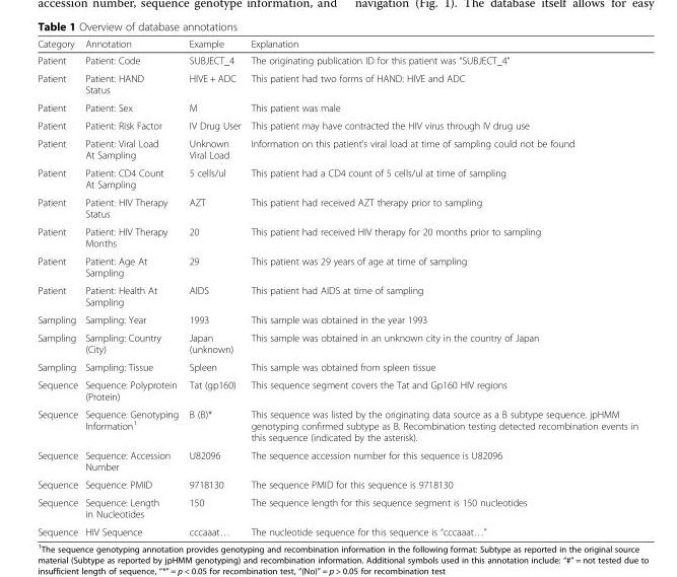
<table><thead><tr><td>Category</td><td>Annotation</td><td>Example</td><td>Explanation</td></tr></thead><tbody><tr><td>Patient</td><td>Patient: Code</td><td>SUBJECT_4</td><td>The originating publication ID for this patient was “SUBJECT_4”</td></tr><tr><td>Patient</td><td>Patient: HAND Status</td><td>HIVE + ADC</td><td>This patient had two forms of HAND: HIVE and ADC</td></tr><tr><td>Patient</td><td>Patient: Sex</td><td>M</td><td>This patient was male</td></tr><tr><td>Patient</td><td>Patient: Risk Factor</td><td>IV Drug User</td><td>This patient may have contracted the HIV virus through IV drug use</td></tr><tr><td>Patient</td><td>Patient: Viral Load At Sampling</td><td>Unknown Viral Load</td><td>Information on this patient’s viral load at time of sampling could not be found</td></tr><tr><td>Patient</td><td>Patient: CD4 Count At Sampling</td><td>5 cells/ul</td><td>This patient had a CD4 count of 5 cells/ul at time of sampling</td></tr><tr><td>Patient</td><td>Patient: HIV Therapy Status</td><td>AZT</td><td>This patient had received AZT therapy prior to sampling</td></tr><tr><td>Patient</td><td>Patient: HIV Therapy Months</td><td>20</td><td>This patient had received HIV therapy for 20 months prior to sampling</td></tr><tr><td>Patient</td><td>Patient: Age At Sampling</td><td>29</td><td>This patient was 29 years of age at time of sampling</td></tr><tr><td>Patient</td><td>Patient: Health At Sampling</td><td>AIDS</td><td>This patient had AIDS at time of sampling</td></tr><tr><td>Sampling</td><td>Sampling: Year</td><td>1993</td><td>This sample was obtained in the year 1993</td></tr><tr><td>Sampling</td><td>Sampling: Country (City)</td><td>Japan (unknown)</td><td>This sample was obtained in an unknown city in the country of Japan</td></tr><tr><td>Sampling</td><td>Sampling: Tissue</td><td>Spleen</td><td>This sample was obtained from spleen tissue</td></tr><tr><td>Sequence</td><td>Sequence: Polyprotein (Protein)</td><td>Tat (gp160)</td><td>This sequence segment covers the Tat and Gp160 HIV regions</td></tr><tr><td>Sequence</td><td>Sequence: Genotyping Information<sup>1</sup></td><td>B (B)*</td><td>This sequence was listed by the originating data source as a B subtype sequence. jpHMM genotyping confirmed subtype as B. Recombination testing detected recombination events in this sequence (indicated by the asterisk).</td></tr><tr><td>Sequence</td><td>Sequence: Accession Number</td><td>U82096</td><td>The sequence accession number for this sequence is U82096</td></tr><tr><td>Sequence</td><td>Sequence: PMID</td><td>9718130</td><td>The sequence PMID for this sequence is 9718130</td></tr><tr><td>Sequence</td><td>Sequence: Length in Nucleotides</td><td>150</td><td>The sequence length for this sequence segment is 150 nucleotides</td></tr><tr><td>Sequence</td><td>HIV Sequence</td><td>cccaaat…</td><td>The nucleotide sequence for this sequence is “cccaaat…”</td></tr></tbody></table>